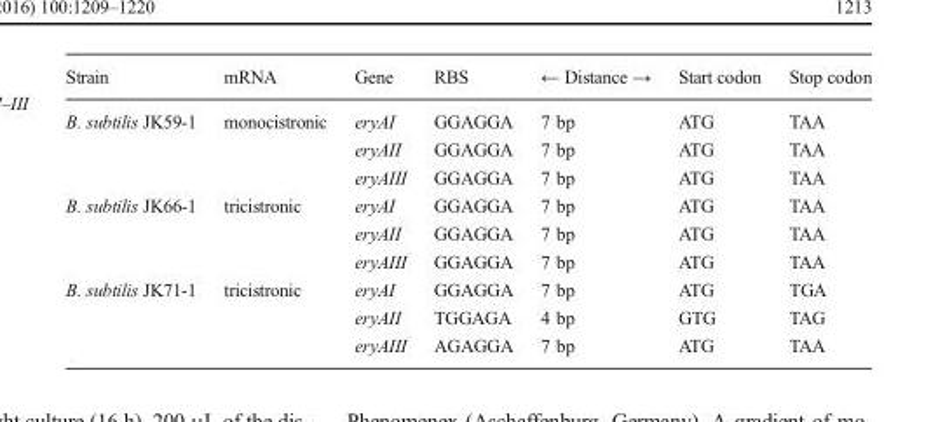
<table><thead><tr><td>Strain</td><td>mRNA</td><td>Gene</td><td>RBS</td><td>← Distance →</td><td>Start codon</td><td>Stop codon</td></tr></thead><tbody><tr><td rowspan="3">B. subtilis JK59-1</td><td rowspan="3">monocistronic</td><td>eryAI</td><td>GGAGGA</td><td>7 bp</td><td>ATG</td><td>TAA</td></tr><tr><td>eryAII</td><td>GGAGGA</td><td>7 bp</td><td>ATG</td><td>TAA</td></tr><tr><td>eryAIII</td><td>GGAGGA</td><td>7 bp</td><td>ATG</td><td>TAA</td></tr><tr><td rowspan="3">B. subtilis JK66-1</td><td rowspan="3">tricistronic</td><td>eryAI</td><td>GGAGGA</td><td>7 bp</td><td>ATG</td><td>TAA</td></tr><tr><td>eryAII</td><td>GGAGGA</td><td>7 bp</td><td>ATG</td><td>TAA</td></tr><tr><td>eryAIII</td><td>GGAGGA</td><td>7 bp</td><td>ATG</td><td>TAA</td></tr><tr><td rowspan="3">B. subtilis JK71-1</td><td rowspan="3">tricistronic</td><td>eryAI</td><td>GGAGGA</td><td>7 bp</td><td>ATG</td><td>TGA</td></tr><tr><td>eryAII</td><td>TGGAGA</td><td>4 bp</td><td>GTG</td><td>TAG</td></tr><tr><td>eryAIII</td><td>AGAGGA</td><td>7 bp</td><td>ATG</td><td>TAA</td></tr></tbody></table>